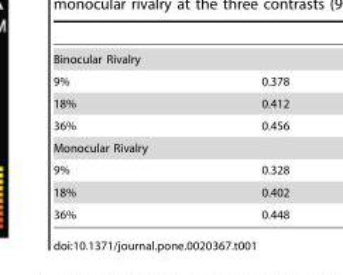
<table><tbody><tr><td colspan="2">Binocular Rivalry</td></tr><tr><td>9%</td><td>0.378</td></tr><tr><td>18%</td><td>0.412</td></tr><tr><td>36%</td><td>0.456</td></tr><tr><td colspan="2">Monocular Rivalry</td></tr><tr><td>9%</td><td>0.328</td></tr><tr><td>18%</td><td>0.402</td></tr><tr><td>36%</td><td>0.448</td></tr></tbody></table>